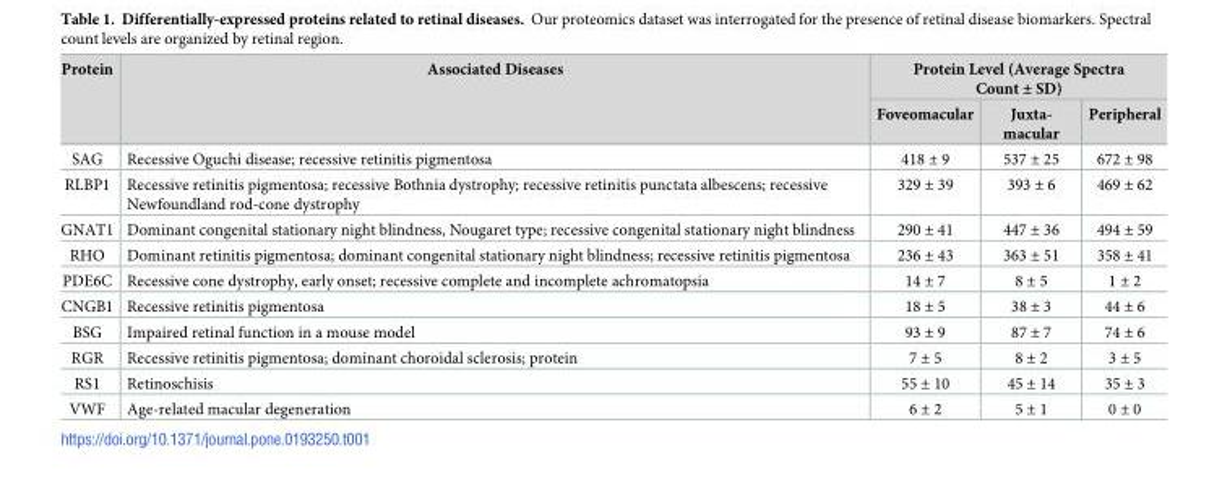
<table><thead><tr><td rowspan="2">Protein</td><td rowspan="2">Associated Diseases</td><td colspan="3">Protein Level (Average Spectra Count ± SD)</td></tr><tr><td>Foveomacular</td><td>Juxta- macular</td><td>Peripheral</td></tr></thead><tbody><tr><td>SAG</td><td>Recessive Oguchi disease; recessive retinitis pigmentosa</td><td>418 ± 9</td><td>537 ± 25</td><td>672 ± 98</td></tr><tr><td>RLBP1</td><td>Recessive retinitis pigmentosa; recessive Bothnia dystrophy; recessive retinitis punctata albescens; recessive Newfoundland rod-cone dystrophy</td><td>329 ± 39</td><td>393 ± 6</td><td>469 ± 62</td></tr><tr><td>GNAT1</td><td>Dominant congenital stationary night blindness, Nougaret type; recessive congenital stationary night blindness</td><td>290 ± 41</td><td>447 ± 36</td><td>494 ± 59</td></tr><tr><td>RHO</td><td>Dominant retinitis pigmentosa; dominant congenital stationary night blindness; recessive retinitis pigmentosa</td><td>236 ± 43</td><td>363 ± 51</td><td>358 ± 41</td></tr><tr><td>PDE6C</td><td>Recessive cone dystrophy, early onset; recessive complete and incomplete achromatopsia</td><td>14 ± 7</td><td>8 ± 5</td><td>1 ± 2</td></tr><tr><td>CNGB1</td><td>Recessive retinitis pigmentosa</td><td>18 ± 5</td><td>38 ± 3</td><td>44 ± 6</td></tr><tr><td>BSG</td><td>Impaired retinal function in a mouse model</td><td>93 ± 9</td><td>87 ± 7</td><td>74 ± 6</td></tr><tr><td>RGR</td><td>Recessive retinitis pigmentosa; dominant choroidal sclerosis; protein</td><td>7 ± 5</td><td>8 ± 2</td><td>3 ± 5</td></tr><tr><td>RS1</td><td>Retinoschisis</td><td>55 ± 10</td><td>45 ± 14</td><td>35 ± 3</td></tr><tr><td>VWF</td><td>Age-related macular degeneration</td><td>6 ± 2</td><td>5 ± 1</td><td>0 ± 0</td></tr></tbody></table>